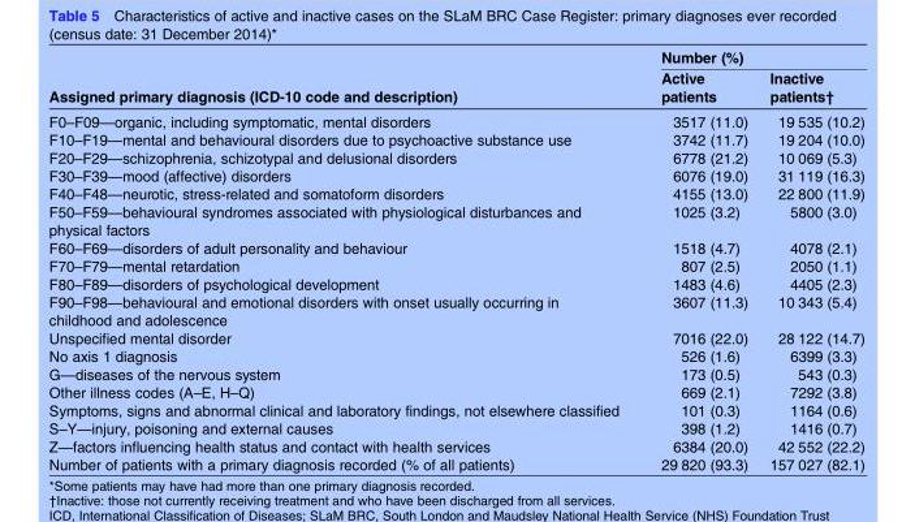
<table><thead><tr><td rowspan="2">Assigned primary diagnosis (ICD-10 code and description)</td><td colspan="2">Number (%)</td></tr><tr><td>Active patients</td><td>Inactive patients†</td></tr></thead><tbody><tr><td>F0–F09—organic, including symptomatic, mental disorders</td><td>3517 (11.0)</td><td>19 535 (10.2)</td></tr><tr><td>F10–F19—mental and behavioural disorders due to psychoactive substance use</td><td>3742 (11.7)</td><td>19 204 (10.0)</td></tr><tr><td>F20–F29—schizophrenia, schizotypal and delusional disorders</td><td>6778 (21.2)</td><td>10 069 (5.3)</td></tr><tr><td>F30–F39—mood (affective) disorders</td><td>6076 (19.0)</td><td>31 119 (16.3)</td></tr><tr><td>F40–F48—neurotic, stress-related and somatoform disorders</td><td>4155 (13.0)</td><td>22 800 (11.9)</td></tr><tr><td>F50–F59—behavioural syndromes associated with physiological disturbances and physical factors</td><td>1025 (3.2)</td><td>5800 (3.0)</td></tr><tr><td>F60–F69—disorders of adult personality and behaviour</td><td>1518 (4.7)</td><td>4078 (2.1)</td></tr><tr><td>F70–F79—mental retardation</td><td>807 (2.5)</td><td>2050 (1.1)</td></tr><tr><td>F80–F89—disorders of psychological development</td><td>1483 (4.6)</td><td>4405 (2.3)</td></tr><tr><td>F90–F98—behavioural and emotional disorders with onset usually occurring in childhood and adolescence</td><td>3607 (11.3)</td><td>10 343 (5.4)</td></tr><tr><td>Unspecified mental disorder</td><td>7016 (22.0)</td><td>28 122 (14.7)</td></tr><tr><td>No axis 1 diagnosis</td><td>526 (1.6)</td><td>6399 (3.3)</td></tr><tr><td>G—diseases of the nervous system</td><td>173 (0.5)</td><td>543 (0.3)</td></tr><tr><td>Other illness codes (A–E, H–Q)</td><td>669 (2.1)</td><td>7292 (3.8)</td></tr><tr><td>Symptoms, signs and abnormal clinical and laboratory findings, not elsewhere classified</td><td>101 (0.3)</td><td>1164 (0.6)</td></tr><tr><td>S–Y—injury, poisoning and external causes</td><td>398 (1.2)</td><td>1416 (0.7)</td></tr><tr><td>Z—factors influencing health status and contact with health services</td><td>6384 (20.0)</td><td>42 552 (22.2)</td></tr><tr><td>Number of patients with a primary diagnosis recorded (% of all patients)</td><td>29 820 (93.3)</td><td>157 027 (82.1)</td></tr></tbody></table>